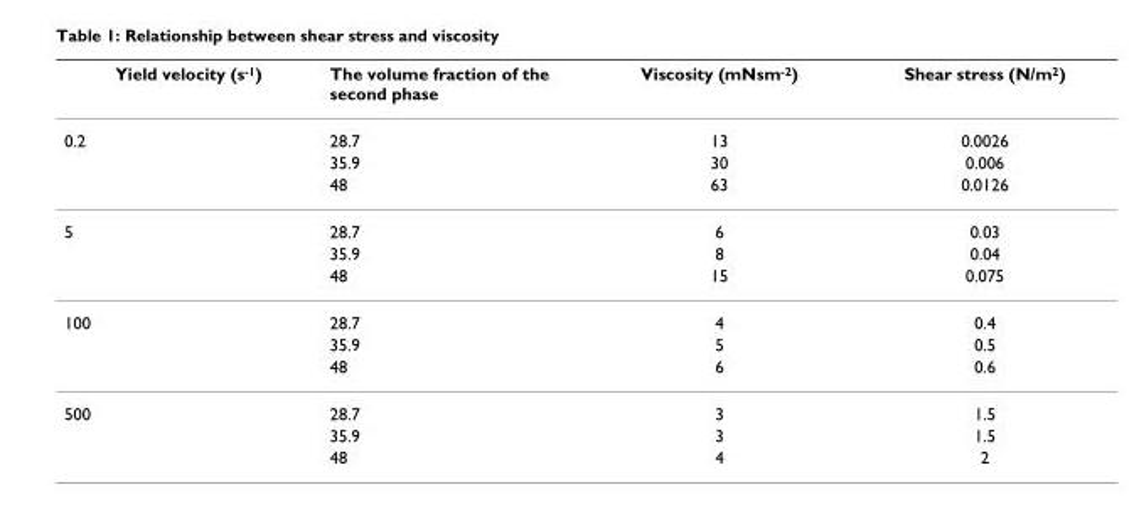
<table><thead><tr><td>Yield velocity (s<sup>-1</sup>)</td><td>The volume fraction of the second phase</td><td>Viscosity (mNsm<sup>-2</sup>)</td><td>Shear stress (N/m<sup>2</sup>)</td></tr></thead><tbody><tr><td rowspan="3">0.2</td><td>28.7</td><td>13</td><td>0.0026</td></tr><tr><td>35.9</td><td>30</td><td>0.006</td></tr><tr><td>48</td><td>63</td><td>0.0126</td></tr><tr><td rowspan="3">5</td><td>28.7</td><td>6</td><td>0.03</td></tr><tr><td>35.9</td><td>8</td><td>0.04</td></tr><tr><td>48</td><td>15</td><td>0.075</td></tr><tr><td rowspan="3">100</td><td>28.7</td><td>4</td><td>0.4</td></tr><tr><td>35.9</td><td>5</td><td>0.5</td></tr><tr><td>48</td><td>6</td><td>0.6</td></tr><tr><td rowspan="3">500</td><td>28.7</td><td>3</td><td>1.5</td></tr><tr><td>35.9</td><td>3</td><td>1.5</td></tr><tr><td>48</td><td>4</td><td>2</td></tr></tbody></table>